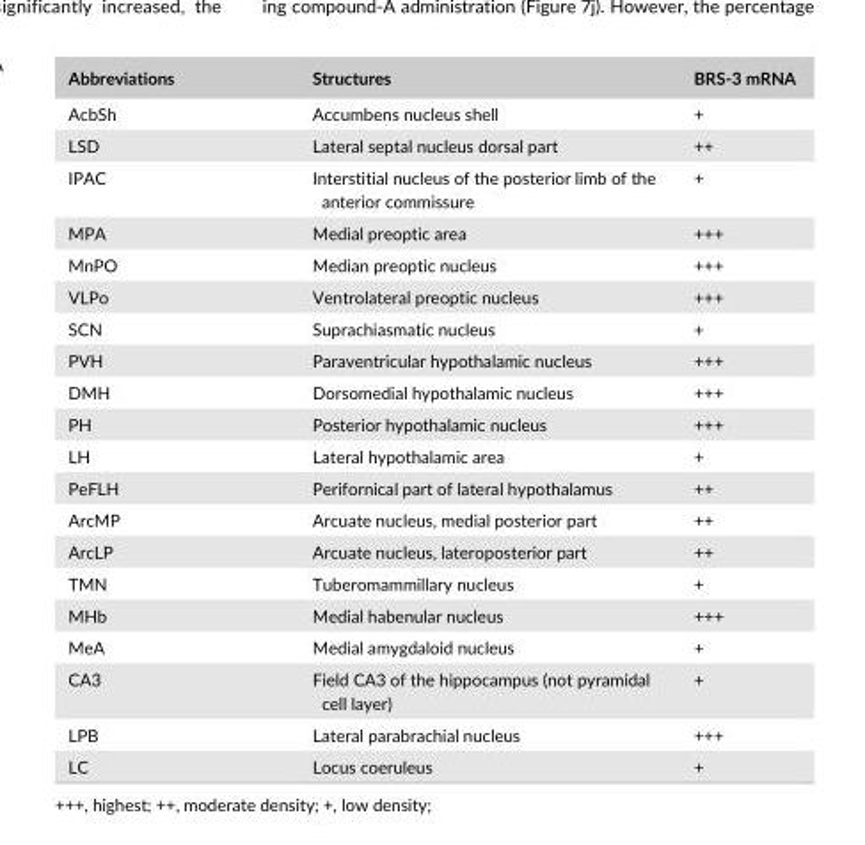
<table><thead><tr><td>Abbreviations</td><td>Structures</td><td>BRS- 3 mRNA</td></tr></thead><tbody><tr><td>AcbSh</td><td>Accumbens nucleus shell</td><td>+</td></tr><tr><td>LSD</td><td>Lateral septal nucleus dorsal part</td><td>++</td></tr><tr><td>IPAC</td><td>Interstitial nucleus of the posterior limb of the anterior commissure</td><td>+</td></tr><tr><td>MPA</td><td>Medial preoptic area</td><td>+++</td></tr><tr><td>MnPO</td><td>Median preoptic nucleus</td><td>+++</td></tr><tr><td>VLPo</td><td>Ventrolateral preoptic nucleus</td><td>+++</td></tr><tr><td>SCN</td><td>Suprachiasmatic nucleus</td><td>+</td></tr><tr><td>PVH</td><td>Paraventricular hypothalamic nucleus</td><td>+++</td></tr><tr><td>DMH</td><td>Dorsomedial hypothalamic nucleus</td><td>+++</td></tr><tr><td>PH</td><td>Posterior hypothalamic nucleus</td><td>+++</td></tr><tr><td>LH</td><td>Lateral hypothalamic area</td><td>+</td></tr><tr><td>PeFLH</td><td>Perifornical part of lateral hypothalamus</td><td>++</td></tr><tr><td>ArcMP</td><td>Arcuate nucleus, medial posterior part</td><td>++</td></tr><tr><td>ArcLP</td><td>Arcuate nucleus, lateroposterior part</td><td>++</td></tr><tr><td>TMN</td><td>Tuberomammillary nucleus</td><td>+</td></tr><tr><td>MHb</td><td>Medial habenular nucleus</td><td>+++</td></tr><tr><td>MeA</td><td>Medial amygdaloid nucleus</td><td>+</td></tr><tr><td>CA3</td><td>Field CA3 of the hippocampus (not pyramidal cell layer)</td><td>+</td></tr><tr><td>LPB</td><td>Lateral parabrachial nucleus</td><td>+++</td></tr><tr><td>LC</td><td>Locus coeruleus</td><td>+</td></tr></tbody></table>